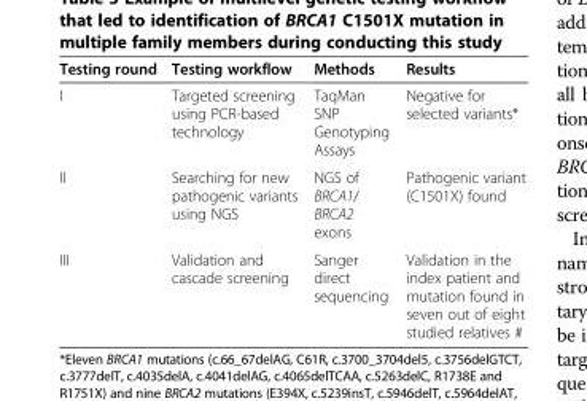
<table><thead><tr><td>Testing round</td><td>Testing workflow</td><td>Methods</td><td>Results</td></tr></thead><tbody><tr><td>I</td><td>Targeted screening using PCR-based technology</td><td>TaqMan SNP Genotyping Assays</td><td>Negative for selected variants*</td></tr><tr><td>II</td><td>Searching for new pathogenic variants using NGS</td><td>NGS of BRCA1/ BRCA2 exons</td><td>Pathogenic variant (C1501X) found</td></tr><tr><td>III</td><td>Validation and cascade screening</td><td>Sanger direct sequencing</td><td>Validation in the index patient and mutation found in seven out of eight studied relatives #</td></tr></tbody></table>